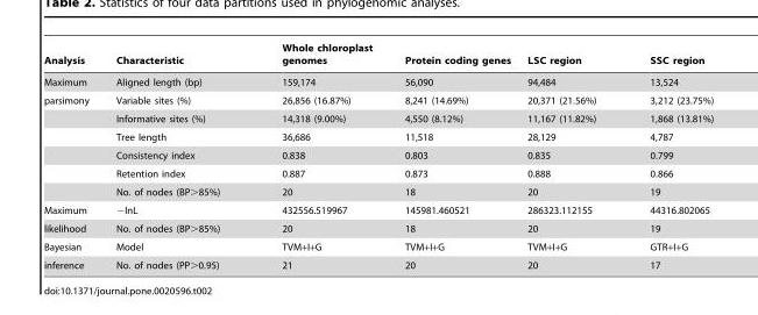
<table><thead><tr><td>Analysis</td><td>Characteristic</td><td>Whole chloroplast genomes</td><td>Protein coding genes</td><td>LSC region</td><td>SSC region</td></tr></thead><tbody><tr><td>Maximum</td><td>Aligned length (bp)</td><td>159,174</td><td>56,090</td><td>94,484</td><td>13,524</td></tr><tr><td rowspan="6">parsimony</td><td>Variable sites (%)</td><td>26,856 (16.87%)</td><td>8,241 (14.69%)</td><td>20,371 (21.56%)</td><td>3,212 (23.75%)</td></tr><tr><td>Informative sites (%)</td><td>14,318 (9.00%)</td><td>4,550 (8.12%)</td><td>11,167 (11.82%)</td><td>1,868 (13.81%)</td></tr><tr><td>Tree length</td><td>36,686</td><td>11,518</td><td>28,129</td><td>4,787</td></tr><tr><td>Consistency index</td><td>0.838</td><td>0.803</td><td>0.835</td><td>0.799</td></tr><tr><td>Retention index</td><td>0.887</td><td>0.873</td><td>0.888</td><td>0.866</td></tr><tr><td>No. of nodes (BP&gt;85%)</td><td>20</td><td>18</td><td>20</td><td>19</td></tr><tr><td>Maximum</td><td>−lnL</td><td>432556.519967</td><td>145981.460521</td><td>286323.112155</td><td>44316.802065</td></tr><tr><td>likelihood</td><td>No. of nodes (BP&gt;85%)</td><td>20</td><td>18</td><td>20</td><td>19</td></tr><tr><td>Bayesian</td><td>Model</td><td>TVM+I+G</td><td>TVM+I+G</td><td>TVM+I+G</td><td>GTR+I+G</td></tr><tr><td>inference</td><td>No. of nodes (PP&gt;0.95)</td><td>21</td><td>20</td><td>20</td><td>17</td></tr></tbody></table>